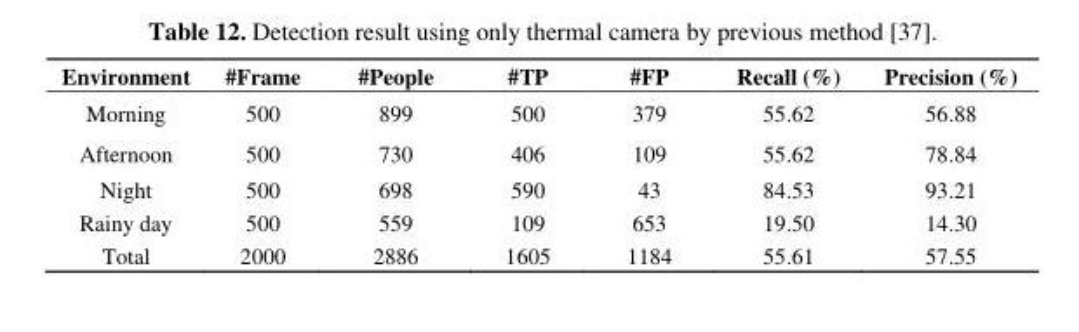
<table><thead><tr><td>Environment</td><td>#Frame</td><td>#People</td><td>#TP</td><td>#FP</td><td>Recall (%)</td><td>Precision (%)</td></tr></thead><tbody><tr><td>Morning</td><td>500</td><td>899</td><td>500</td><td>379</td><td>55.62</td><td>56.88</td></tr><tr><td>Afternoon</td><td>500</td><td>730</td><td>406</td><td>109</td><td>55.62</td><td>78.84</td></tr><tr><td>Night</td><td>500</td><td>698</td><td>590</td><td>43</td><td>84.53</td><td>93.21</td></tr><tr><td>Rainy day</td><td>500</td><td>559</td><td>109</td><td>653</td><td>19.50</td><td>14.30</td></tr><tr><td>Total</td><td>2000</td><td>2886</td><td>1605</td><td>1184</td><td>55.61</td><td>57.55</td></tr></tbody></table>